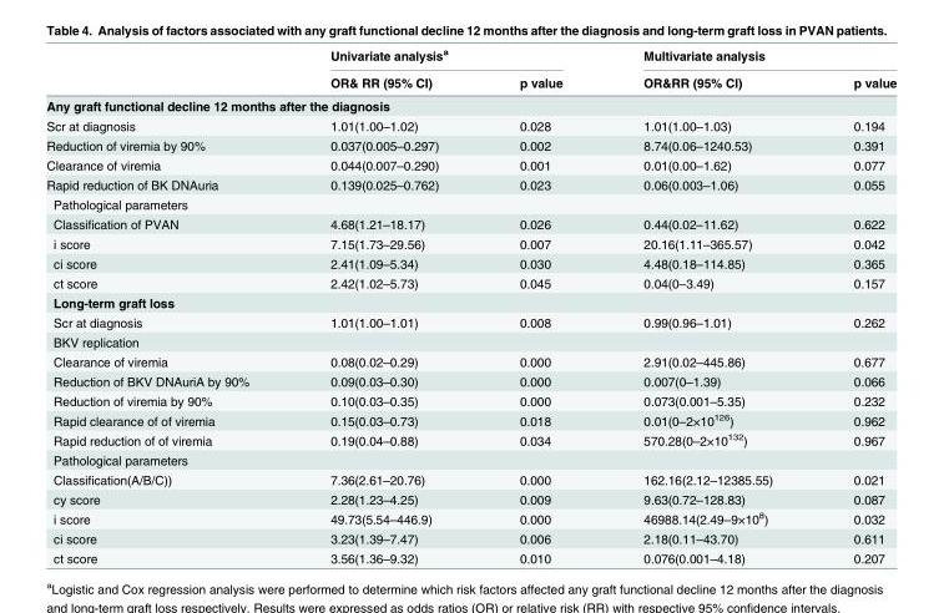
<table><thead><tr><td rowspan="2"></td><td colspan="2">Univariate analysis<sup>a</sup></td><td colspan="2">Multivariate analysis</td></tr><tr><td>OR&amp; RR (95% CI)</td><td>p value</td><td>OR&amp;RR (95% CI)</td><td>p value</td></tr></thead><tbody><tr><td colspan="5">Any graft functional decline 12 months after the diagnosis</td></tr><tr><td>Scr at diagnosis</td><td>1.01(1.00–1.02)</td><td>0.028</td><td>1.01(1.00–1.03)</td><td>0.194</td></tr><tr><td>Reduction of viremia by 90%</td><td>0.037(0.005–0.297)</td><td>0.002</td><td>8.74(0.06–1240.53)</td><td>0.391</td></tr><tr><td>Clearance of viremia</td><td>0.044(0.007–0.290)</td><td>0.001</td><td>0.01(0.00–1.62)</td><td>0.077</td></tr><tr><td>Rapid reduction of BK DNAuria</td><td>0.139(0.025–0.762)</td><td>0.023</td><td>0.06(0.003–1.06)</td><td>0.055</td></tr><tr><td colspan="5">Pathological parameters</td></tr><tr><td>Classification of PVAN</td><td>4.68(1.21–18.17)</td><td>0.026</td><td>0.44(0.02–11.62)</td><td>0.622</td></tr><tr><td>i score</td><td>7.15(1.73–29.56)</td><td>0.007</td><td>20.16(1.11–365.57)</td><td>0.042</td></tr><tr><td>ci score</td><td>2.41(1.09–5.34)</td><td>0.030</td><td>4.48(0.18–114.85)</td><td>0.365</td></tr><tr><td>ct score</td><td>2.42(1.02–5.73)</td><td>0.045</td><td>0.04(0–3.49)</td><td>0.157</td></tr><tr><td colspan="5">Long-term graft loss</td></tr><tr><td>Scr at diagnosis</td><td>1.01(1.00–1.01)</td><td>0.008</td><td>0.99(0.96–1.01)</td><td>0.262</td></tr><tr><td colspan="5">BKV replication</td></tr><tr><td>Clearance of viremia</td><td>0.08(0.02–0.29)</td><td>0.000</td><td>2.91(0.02–445.86)</td><td>0.677</td></tr><tr><td>Reduction of BKV DNAuriA by 90%</td><td>0.09(0.03–0.30)</td><td>0.000</td><td>0.007(0–1.39)</td><td>0.066</td></tr><tr><td>Reduction of viremia by 90%</td><td>0.10(0.03–0.35)</td><td>0.000</td><td>0.073(0.001–5.35)</td><td>0.232</td></tr><tr><td>Rapid clearance of of viremia</td><td>0.15(0.03–0.73)</td><td>0.018</td><td>0.01(0–2×10<sup>126</sup>)</td><td>0.962</td></tr><tr><td>Rapid reduction of of viremia</td><td>0.19(0.04–0.88)</td><td>0.034</td><td>570.28(0–2×10<sup>132</sup>)</td><td>0.967</td></tr><tr><td colspan="5">Pathological parameters</td></tr><tr><td>Classification(A/B/C))</td><td>7.36(2.61–20.76)</td><td>0.000</td><td>162.16(2.12–12385.55)</td><td>0.021</td></tr><tr><td>cy score</td><td>2.28(1.23–4.25)</td><td>0.009</td><td>9.63(0.72–128.83)</td><td>0.087</td></tr><tr><td>i score</td><td>49.73(5.54–446.9)</td><td>0.000</td><td>46988.14(2.49–9×10<sup>8</sup>)</td><td>0.032</td></tr><tr><td>ci score</td><td>3.23(1.39–7.47)</td><td>0.006</td><td>2.18(0.11–43.70)</td><td>0.611</td></tr><tr><td>ct score</td><td>3.56(1.36–9.32)</td><td>0.010</td><td>0.076(0.001–4.18)</td><td>0.207</td></tr></tbody></table>